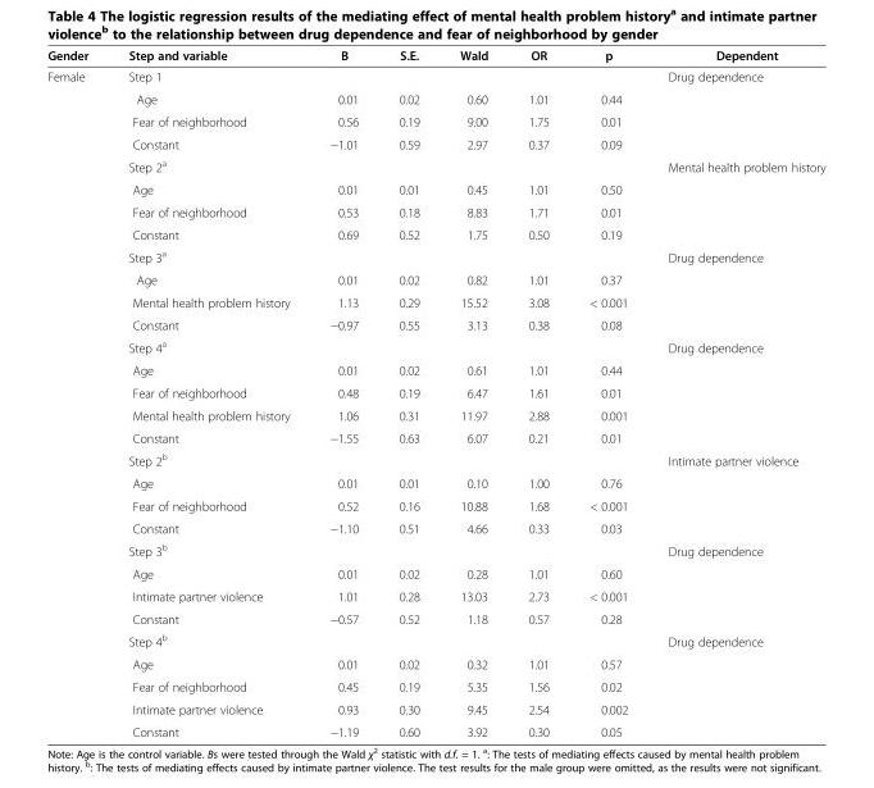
<table><thead><tr><td>Gender</td><td>Step and variable</td><td>B</td><td>S.E.</td><td>Wald</td><td>OR</td><td>p</td><td>Dependent</td></tr></thead><tbody><tr><td rowspan="30">Female</td><td>Step 1</td><td></td><td></td><td></td><td></td><td></td><td>Drug dependence</td></tr><tr><td>Age</td><td>0.01</td><td>0.02</td><td>0.60</td><td>1.01</td><td>0.44</td><td></td></tr><tr><td>Fear of neighborhood</td><td>0.56</td><td>0.19</td><td>9.00</td><td>1.75</td><td>0.01</td><td></td></tr><tr><td>Constant</td><td>−1.01</td><td>0.59</td><td>2.97</td><td>0.37</td><td>0.09</td><td></td></tr><tr><td>Step 2<sup>a</sup></td><td></td><td></td><td></td><td></td><td></td><td>Mental health problem history</td></tr><tr><td>Age</td><td>0.01</td><td>0.01</td><td>0.45</td><td>1.01</td><td>0.50</td><td></td></tr><tr><td>Fear of neighborhood</td><td>0.53</td><td>0.18</td><td>8.83</td><td>1.71</td><td>0.01</td><td></td></tr><tr><td>Constant</td><td>0.69</td><td>0.52</td><td>1.75</td><td>0.50</td><td>0.19</td><td></td></tr><tr><td>Step 3<sup>a</sup></td><td></td><td></td><td></td><td></td><td></td><td>Drug dependence</td></tr><tr><td>Age</td><td>0.01</td><td>0.02</td><td>0.82</td><td>1.01</td><td>0.37</td><td></td></tr><tr><td>Mental health problem history</td><td>1.13</td><td>0.29</td><td>15.52</td><td>3.08</td><td>&lt; 0.001</td><td></td></tr><tr><td>Constant</td><td>−0.97</td><td>0.55</td><td>3.13</td><td>0.38</td><td>0.08</td><td></td></tr><tr><td>Step 4<sup>a</sup></td><td></td><td></td><td></td><td></td><td></td><td>Drug dependence</td></tr><tr><td>Age</td><td>0.01</td><td>0.02</td><td>0.61</td><td>1.01</td><td>0.44</td><td></td></tr><tr><td>Fear of neighborhood</td><td>0.48</td><td>0.19</td><td>6.47</td><td>1.61</td><td>0.01</td><td></td></tr><tr><td>Mental health problem history</td><td>1.06</td><td>0.31</td><td>11.97</td><td>2.88</td><td>0.001</td><td></td></tr><tr><td>Constant</td><td>−1.55</td><td>0.63</td><td>6.07</td><td>0.21</td><td>0.01</td><td></td></tr><tr><td>Step 2<sup>b</sup></td><td></td><td></td><td></td><td></td><td></td><td>Intimate partner violence</td></tr><tr><td>Age</td><td>0.01</td><td>0.01</td><td>0.10</td><td>1.00</td><td>0.76</td><td></td></tr><tr><td>Fear of neighborhood</td><td>0.52</td><td>0.16</td><td>10.88</td><td>1.68</td><td>&lt; 0.001</td><td></td></tr><tr><td>Constant</td><td>−1.10</td><td>0.51</td><td>4.66</td><td>0.33</td><td>0.03</td><td></td></tr><tr><td>Step 3<sup>b</sup></td><td></td><td></td><td></td><td></td><td></td><td>Drug dependence</td></tr><tr><td>Age</td><td>0.01</td><td>0.02</td><td>0.28</td><td>1.01</td><td>0.60</td><td></td></tr><tr><td>Intimate partner violence</td><td>1.01</td><td>0.28</td><td>13.03</td><td>2.73</td><td>&lt; 0.001</td><td></td></tr><tr><td>Constant</td><td>−0.57</td><td>0.52</td><td>1.18</td><td>0.57</td><td>0.28</td><td></td></tr><tr><td>Step 4<sup>b</sup></td><td></td><td></td><td></td><td></td><td></td><td>Drug dependence</td></tr><tr><td>Age</td><td>0.01</td><td>0.02</td><td>0.32</td><td>1.01</td><td>0.57</td><td></td></tr><tr><td>Fear of neighborhood</td><td>0.45</td><td>0.19</td><td>5.35</td><td>1.56</td><td>0.02</td><td></td></tr><tr><td>Intimate partner violence</td><td>0.93</td><td>0.30</td><td>9.45</td><td>2.54</td><td>0.002</td><td></td></tr><tr><td>Constant</td><td>−1.19</td><td>0.60</td><td>3.92</td><td>0.30</td><td>0.05</td><td></td></tr></tbody></table>